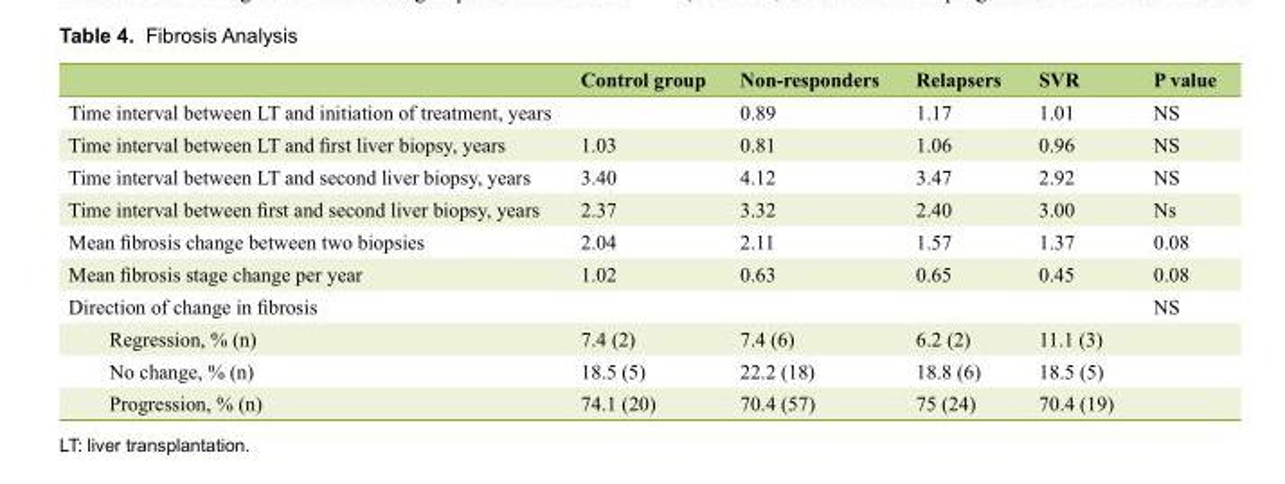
<table><thead><tr><td></td><td>Control group</td><td>Non-responders</td><td>Relapsers</td><td>SVR</td><td>P value</td></tr></thead><tbody><tr><td>Time interval between LT and initiation of treatment, years</td><td></td><td>0.89</td><td>1.17</td><td>1.01</td><td>NS</td></tr><tr><td>Time interval between LT and first liver biopsy, years</td><td>1.03</td><td>0.81</td><td>1.06</td><td>0.96</td><td>NS</td></tr><tr><td>Time interval between LT and second liver biopsy, years</td><td>3.40</td><td>4.12</td><td>3.47</td><td>2.92</td><td>NS</td></tr><tr><td>Time interval between first and second liver biopsy, years</td><td>2.37</td><td>3.32</td><td>2.40</td><td>3.00</td><td>Ns</td></tr><tr><td>Mean fibrosis change between two biopsies</td><td>2.04</td><td>2.11</td><td>1.57</td><td>1.37</td><td>0.08</td></tr><tr><td>Mean fibrosis stage change per year</td><td>1.02</td><td>0.63</td><td>0.65</td><td>0.45</td><td>0.08</td></tr><tr><td>Direction of change in fibrosis</td><td></td><td></td><td></td><td></td><td>NS</td></tr><tr><td>Regression, % (n)</td><td>7.4 (2)</td><td>7.4 (6)</td><td>6.2 (2)</td><td>11.1 (3)</td><td></td></tr><tr><td>No change, % (n)</td><td>18.5 (5)</td><td>22.2 (18)</td><td>18.8 (6)</td><td>18.5 (5)</td><td></td></tr><tr><td>Progression, % (n)</td><td>74.1 (20)</td><td>70.4 (57)</td><td>75 (24)</td><td>70.4 (19)</td><td></td></tr></tbody></table>